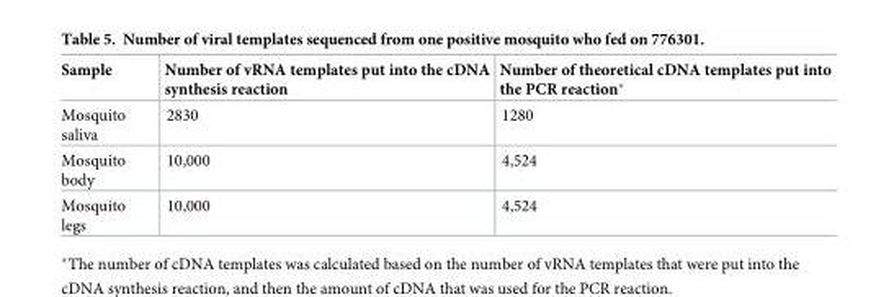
<table><thead><tr><td>Sample</td><td>Number of vRNA templates put into the cDNA synthesis reaction</td><td>Number of theoretical cDNA templates put into the PCR reaction*</td></tr></thead><tbody><tr><td>Mosquito saliva</td><td>2830</td><td>1280</td></tr><tr><td>Mosquito body</td><td>10,000</td><td>4,524</td></tr><tr><td>Mosquito legs</td><td>10,000</td><td>4,524</td></tr></tbody></table>